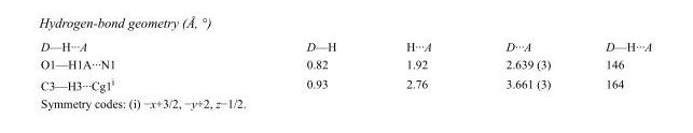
<table><tbody><tr><td>D—H···A</td><td>D—H</td><td>H···A</td><td>D···A</td><td>D—H···A</td></tr><tr><td>O1—H1A···N1</td><td>0.82</td><td>1.92</td><td>2.639 (3)</td><td>146</td></tr><tr><td>C3—H3···Cg1<sup>i</sup></td><td>0.93</td><td>2.76</td><td>3.661 (3)</td><td>164</td></tr></tbody></table>